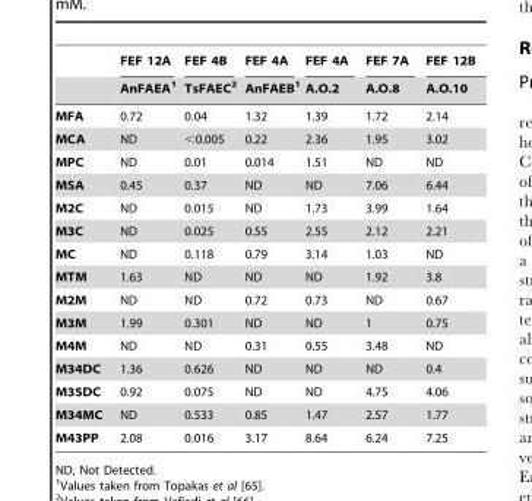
<table><thead><tr><td rowspan="2"></td><td rowspan="2">FEF 12A AnFAEA<sup>1</sup></td><td rowspan="2">FEF 4B TsFAEC<sup>2</sup></td><td rowspan="2">FEF 4A AnFAEB<sup>1</sup></td><td rowspan="2">FEF 4A A.O.2</td><td rowspan="2">FEF 7A A.O.8</td><td rowspan="2">FEF 12B A.O.10</td></tr><tr></tr></thead><tbody><tr><td>MFA</td><td>0.72</td><td>0.04</td><td>1.32</td><td>1.39</td><td>1.72</td><td>2.14</td></tr><tr><td>MCA</td><td>ND</td><td>&lt;0.005</td><td>0.22</td><td>2.36</td><td>1.95</td><td>3.02</td></tr><tr><td>MPC</td><td>ND</td><td>0.01</td><td>0.014</td><td>1.51</td><td>ND</td><td>ND</td></tr><tr><td>MSA</td><td>0.45</td><td>0.37</td><td>ND</td><td>ND</td><td>7.06</td><td>6.44</td></tr><tr><td>M2C</td><td>ND</td><td>0.015</td><td>ND</td><td>1.73</td><td>3.99</td><td>1.64</td></tr><tr><td>M3C</td><td>ND</td><td>0.025</td><td>0.55</td><td>2.55</td><td>2.12</td><td>2.21</td></tr><tr><td>MC</td><td>ND</td><td>0.118</td><td>0.79</td><td>3.14</td><td>1.03</td><td>ND</td></tr><tr><td>MTM</td><td>1.63</td><td>ND</td><td>ND</td><td>ND</td><td>1.92</td><td>3.8</td></tr><tr><td>M2M</td><td>ND</td><td>ND</td><td>0.72</td><td>0.73</td><td>ND</td><td>0.67</td></tr><tr><td>M3M</td><td>1.99</td><td>0.301</td><td>ND</td><td>ND</td><td>1</td><td>0.75</td></tr><tr><td>M4M</td><td>ND</td><td>ND</td><td>0.31</td><td>0.55</td><td>3.48</td><td>ND</td></tr><tr><td>M34DC</td><td>1.36</td><td>0.626</td><td>ND</td><td>ND</td><td>ND</td><td>0.4</td></tr><tr><td>M35DC</td><td>0.92</td><td>0.075</td><td>ND</td><td>ND</td><td>4.75</td><td>4.06</td></tr><tr><td>M34MC</td><td>ND</td><td>0.533</td><td>0.85</td><td>1.47</td><td>2.57</td><td>1.77</td></tr><tr><td>M43PP</td><td>2.08</td><td>0.016</td><td>3.17</td><td>8.64</td><td>6.24</td><td>7.25</td></tr></tbody></table>